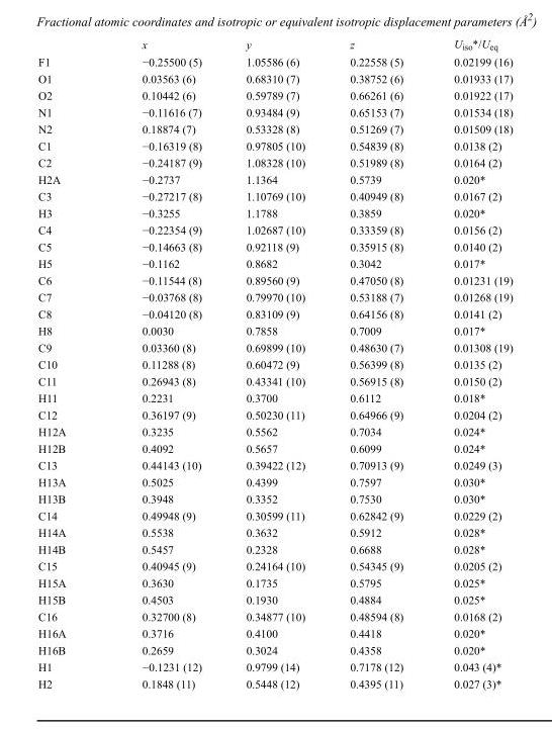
<table><thead><tr><td></td><td>x</td><td>y</td><td>z</td><td>U<sub>iso</sub>*/U<sub>eq</sub></td></tr></thead><tbody><tr><td>F1</td><td>−0.25500 (5)</td><td>1.05586 (6)</td><td>0.22558 (5)</td><td>0.02199 (16)</td></tr><tr><td>O1</td><td>0.03563 (6)</td><td>0.68310 (7)</td><td>0.38752 (6)</td><td>0.01933 (17)</td></tr><tr><td>O2</td><td>0.10442 (6)</td><td>0.59789 (7)</td><td>0.66261 (6)</td><td>0.01922 (17)</td></tr><tr><td>N1</td><td>−0.11616 (7)</td><td>0.93484 (9)</td><td>0.65153 (7)</td><td>0.01534 (18)</td></tr><tr><td>N2</td><td>0.18874 (7)</td><td>0.53328 (8)</td><td>0.51269 (7)</td><td>0.01509 (18)</td></tr><tr><td>C1</td><td>−0.16319 (8)</td><td>0.97805 (10)</td><td>0.54839 (8)</td><td>0.0138 (2)</td></tr><tr><td>C2</td><td>−0.24187 (9)</td><td>1.08328 (10)</td><td>0.51989 (8)</td><td>0.0164 (2)</td></tr><tr><td>H2A</td><td>−0.2737</td><td>1.1364</td><td>0.5739</td><td>0.020*</td></tr><tr><td>C3</td><td>−0.27217 (8)</td><td>1.10769 (10)</td><td>0.40949 (8)</td><td>0.0167 (2)</td></tr><tr><td>H3</td><td>−0.3255</td><td>1.1788</td><td>0.3859</td><td>0.020*</td></tr><tr><td>C4</td><td>−0.22354 (9)</td><td>1.02687 (10)</td><td>0.33359 (8)</td><td>0.0156 (2)</td></tr><tr><td>C5</td><td>−0.14663 (8)</td><td>0.92118 (9)</td><td>0.35915 (8)</td><td>0.0140 (2)</td></tr><tr><td>H5</td><td>−0.1162</td><td>0.8682</td><td>0.3042</td><td>0.017*</td></tr><tr><td>C6</td><td>−0.11544 (8)</td><td>0.89560 (9)</td><td>0.47050 (8)</td><td>0.01231 (19)</td></tr><tr><td>C7</td><td>−0.03768 (8)</td><td>0.79970 (10)</td><td>0.53188 (7)</td><td>0.01268 (19)</td></tr><tr><td>C8</td><td>−0.04120 (8)</td><td>0.83109 (9)</td><td>0.64156 (8)</td><td>0.0141 (2)</td></tr><tr><td>H8</td><td>0.0030</td><td>0.7858</td><td>0.7009</td><td>0.017*</td></tr><tr><td>C9</td><td>0.03360 (8)</td><td>0.69899 (10)</td><td>0.48630 (7)</td><td>0.01308 (19)</td></tr><tr><td>C10</td><td>0.11288 (8)</td><td>0.60472 (9)</td><td>0.56399 (8)</td><td>0.0135 (2)</td></tr><tr><td>C11</td><td>0.26943 (8)</td><td>0.43341 (10)</td><td>0.56915 (8)</td><td>0.0150 (2)</td></tr><tr><td>H11</td><td>0.2231</td><td>0.3700</td><td>0.6112</td><td>0.018*</td></tr><tr><td>C12</td><td>0.36197 (9)</td><td>0.50230 (11)</td><td>0.64966 (9)</td><td>0.0204 (2)</td></tr><tr><td>H12A</td><td>0.3235</td><td>0.5562</td><td>0.7034</td><td>0.024*</td></tr><tr><td>H12B</td><td>0.4092</td><td>0.5657</td><td>0.6099</td><td>0.024*</td></tr><tr><td>C13</td><td>0.44143 (10)</td><td>0.39422 (12)</td><td>0.70913 (9)</td><td>0.0249 (3)</td></tr><tr><td>H13A</td><td>0.5025</td><td>0.4399</td><td>0.7597</td><td>0.030*</td></tr><tr><td>H13B</td><td>0.3948</td><td>0.3352</td><td>0.7530</td><td>0.030*</td></tr><tr><td>C14</td><td>0.49948 (9)</td><td>0.30599 (11)</td><td>0.62842 (9)</td><td>0.0229 (2)</td></tr><tr><td>H14A</td><td>0.5538</td><td>0.3632</td><td>0.5912</td><td>0.028*</td></tr><tr><td>H14B</td><td>0.5457</td><td>0.2328</td><td>0.6688</td><td>0.028*</td></tr><tr><td>C15</td><td>0.40945 (9)</td><td>0.24164 (10)</td><td>0.54345 (9)</td><td>0.0205 (2)</td></tr><tr><td>H15A</td><td>0.3630</td><td>0.1735</td><td>0.5795</td><td>0.025*</td></tr><tr><td>H15B</td><td>0.4503</td><td>0.1930</td><td>0.4884</td><td>0.025*</td></tr><tr><td>C16</td><td>0.32700 (8)</td><td>0.34877 (10)</td><td>0.48594 (8)</td><td>0.0168 (2)</td></tr><tr><td>H16A</td><td>0.3716</td><td>0.4100</td><td>0.4418</td><td>0.020*</td></tr><tr><td>H16B</td><td>0.2659</td><td>0.3024</td><td>0.4358</td><td>0.020*</td></tr><tr><td>H1</td><td>−0.1231 (12)</td><td>0.9799 (14)</td><td>0.7178 (12)</td><td>0.043 (4)*</td></tr><tr><td>H2</td><td>0.1848 (11)</td><td>0.5448 (12)</td><td>0.4395 (11)</td><td>0.027 (3)*</td></tr></tbody></table>